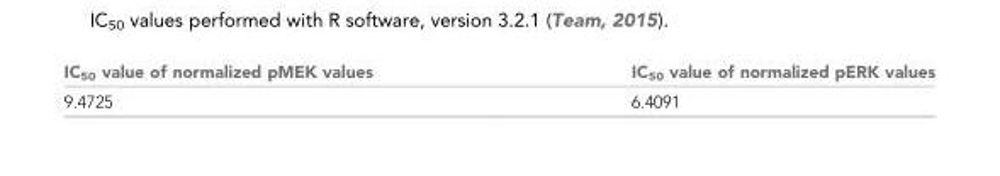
<table><thead><tr><td>IC<sub>50</sub> value of normalized pMEK values</td><td>IC<sub>50</sub> value of normalized pERK values</td></tr></thead><tbody><tr><td>9.4725</td><td>6.4091</td></tr></tbody></table>